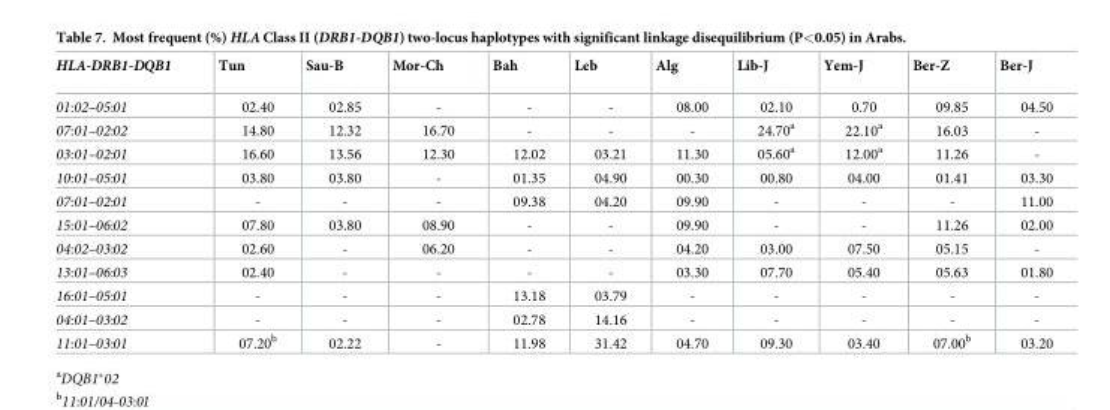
<table><thead><tr><td>HLA-DRB1-DQB1</td><td>Tun</td><td>Sau-B</td><td>Mor-Ch</td><td>Bah</td><td>Leb</td><td>Alg</td><td>Lib-J</td><td>Yem-J</td><td>Ber-Z</td><td>Ber-J</td></tr></thead><tbody><tr><td>01:02–05:01</td><td>02.40</td><td>02.85</td><td>-</td><td>-</td><td>-</td><td>08.00</td><td>02.10</td><td>0.70</td><td>09.85</td><td>04.50</td></tr><tr><td>07:01–02:02</td><td>14.80</td><td>12.32</td><td>16.70</td><td>-</td><td>-</td><td>-</td><td>24.70<sup>a</sup></td><td>22.10<sup>a</sup></td><td>16.03</td><td>-</td></tr><tr><td>03:01–02:01</td><td>16.60</td><td>13.56</td><td>12.30</td><td>12.02</td><td>03.21</td><td>11.30</td><td>05.60<sup>a</sup></td><td>12.00<sup>a</sup></td><td>11.26</td><td>-</td></tr><tr><td>10:01–05:01</td><td>03.80</td><td>03.80</td><td>-</td><td>01.35</td><td>04.90</td><td>00.30</td><td>00.80</td><td>04.00</td><td>01.41</td><td>03.30</td></tr><tr><td>07:01–02:01</td><td>-</td><td>-</td><td>-</td><td>09.38</td><td>04.20</td><td>09.90</td><td>-</td><td>-</td><td>-</td><td>11.00</td></tr><tr><td>15:01–06:02</td><td>07.80</td><td>03.80</td><td>08.90</td><td>-</td><td>-</td><td>09.90</td><td>-</td><td>-</td><td>11.26</td><td>02.00</td></tr><tr><td>04:02–03:02</td><td>02.60</td><td>-</td><td>06.20</td><td>-</td><td>-</td><td>04.20</td><td>03.00</td><td>07.50</td><td>05.15</td><td>-</td></tr><tr><td>13:01–06:03</td><td>02.40</td><td>-</td><td>-</td><td>-</td><td>-</td><td>03.30</td><td>07.70</td><td>05.40</td><td>05.63</td><td>01.80</td></tr><tr><td>16:01–05:01</td><td>-</td><td>-</td><td>-</td><td>13.18</td><td>03.79</td><td>-</td><td>-</td><td>-</td><td>-</td><td>-</td></tr><tr><td>04:01–03:02</td><td>-</td><td>-</td><td>-</td><td>02.78</td><td>14.16</td><td>-</td><td>-</td><td>-</td><td>-</td><td>-</td></tr><tr><td>11:01–03:01</td><td>07.20<sup>b</sup></td><td>02.22</td><td>-</td><td>11.98</td><td>31.42</td><td>04.70</td><td>09.30</td><td>03.40</td><td>07.00<sup>b</sup></td><td>03.20</td></tr></tbody></table>